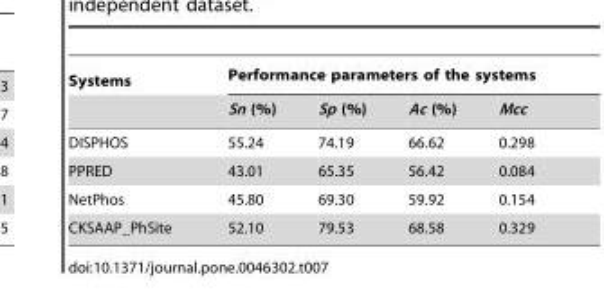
<table><thead><tr><td rowspan="2">Systems</td><td colspan="4">Performance parameters of the systems</td></tr><tr><td>Sn (%)</td><td>Sp (%)</td><td>Ac (%)</td><td>Mcc</td></tr></thead><tbody><tr><td>DISPHOS</td><td>55.24</td><td>74.19</td><td>66.62</td><td>0.298</td></tr><tr><td>PPRED</td><td>43.01</td><td>65.35</td><td>56.42</td><td>0.084</td></tr><tr><td>NetPhos</td><td>45.80</td><td>69.30</td><td>59.92</td><td>0.154</td></tr><tr><td>CKSAAP_PhSite</td><td>52.10</td><td>79.53</td><td>68.58</td><td>0.329</td></tr></tbody></table>